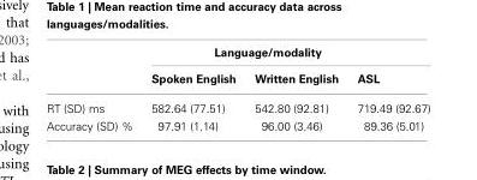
<table><thead><tr><td rowspan="2"></td><td colspan="3">Language/modality</td></tr><tr><td>Spoken English</td><td>Written English</td><td>ASL</td></tr></thead><tbody><tr><td>RT (SD) ms</td><td>582.64 (77.51)</td><td>542.80 (92.81)</td><td>719.49 (92.67)</td></tr><tr><td>Accuracy (SD) %</td><td>97.91 (1.14)</td><td>96.00 (3.46)</td><td>89.36 (5.01)</td></tr></tbody></table>